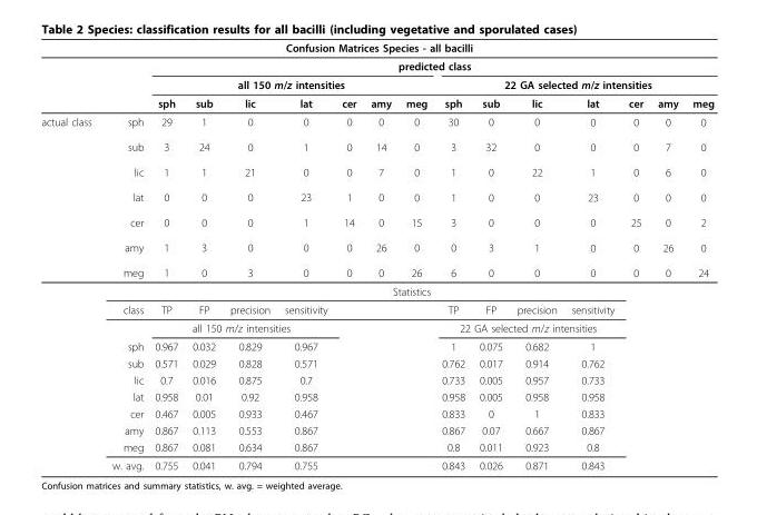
<table><thead><tr><td colspan="16">Confusion Matrices Species - all bacilli</td></tr><tr><td rowspan="3"></td><td rowspan="3"></td><td colspan="14">predicted class</td></tr><tr><td colspan="7">all 150 m/z intensities</td><td colspan="7">22 GA selected m/z intensities</td></tr><tr><td>sph</td><td>sub</td><td>lic</td><td>lat</td><td>cer</td><td>amy</td><td>meg</td><td>sph</td><td>sub</td><td>lic</td><td>lat</td><td>cer</td><td>amy</td><td>meg</td></tr></thead><tbody><tr><td rowspan="12">actual class</td><td>sph sub lic lat cer amy meg</td><td>29 3 1 0 0 1 1</td><td>1 24 1 0 0 3 0</td><td>0 0 21 0 0 0 3</td><td>0 1 0 23 1 0 0</td><td>0 0 0 1 14 0 0</td><td>0 14 7 0 0 26 0</td><td>0 0 0 0 15 0 26</td><td>30 3 1 1 3 0 6</td><td>0 32 0 0 0 3 0</td><td>0 0 22 0 0 1 0</td><td>0 0 1 23 0 0 0</td><td>0 0 0 0 25 0 0</td><td>0 7 6 0 0 26 0</td><td>0 0 0 0 2 0 24</td></tr><tr><td colspan="15">Statistics</td></tr><tr><td>class</td><td>TP</td><td>FP</td><td>precision</td><td>sensitivity</td><td></td><td></td><td></td><td>TP</td><td>FP</td><td>precision</td><td>sensitivity</td><td></td><td></td><td></td></tr><tr><td></td><td colspan="4">all 150 m/z intensities</td><td></td><td></td><td></td><td colspan="4">22 GA selected m/z intensities</td><td></td><td></td><td></td></tr><tr><td>sph</td><td>0.967</td><td>0.032</td><td>0.829</td><td>0.967</td><td></td><td></td><td></td><td>1</td><td>0.075</td><td>0.682</td><td>1</td><td></td><td></td><td></td></tr><tr><td>sub</td><td>0.571</td><td>0.029</td><td>0.828</td><td>0.571</td><td></td><td></td><td></td><td>0.762</td><td>0.017</td><td>0.914</td><td>0.762</td><td></td><td></td><td></td></tr><tr><td>lic</td><td>0.7</td><td>0.016</td><td>0.875</td><td>0.7</td><td></td><td></td><td></td><td>0.733</td><td>0.005</td><td>0.957</td><td>0.733</td><td></td><td></td><td></td></tr><tr><td>lat</td><td>0.958</td><td>0.01</td><td>0.92</td><td>0.958</td><td></td><td></td><td></td><td>0.958</td><td>0.005</td><td>0.958</td><td>0.958</td><td></td><td></td><td></td></tr><tr><td>cer</td><td>0.467</td><td>0.005</td><td>0.933</td><td>0.467</td><td></td><td></td><td></td><td>0.833</td><td>0</td><td>1</td><td>0.833</td><td></td><td></td><td></td></tr><tr><td>amy</td><td>0.867</td><td>0.113</td><td>0.553</td><td>0.867</td><td></td><td></td><td></td><td>0.867</td><td>0.07</td><td>0.667</td><td>0.867</td><td></td><td></td><td></td></tr><tr><td>meg</td><td>0.867</td><td>0.081</td><td>0.634</td><td>0.867</td><td></td><td></td><td></td><td>0.8</td><td>0.011</td><td>0.923</td><td>0.8</td><td></td><td></td><td></td></tr><tr><td>w. avg.</td><td>0.755</td><td>0.041</td><td>0.794</td><td>0.755</td><td></td><td></td><td></td><td>0.843</td><td>0.026</td><td>0.871</td><td>0.843</td><td></td><td></td><td></td></tr></tbody></table>